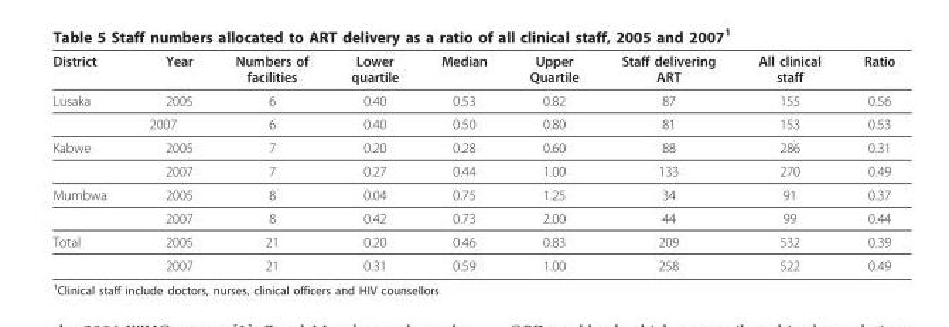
<table><thead><tr><td>District</td><td>Year</td><td>Numbers of facilities</td><td>Lower quartile</td><td>Median</td><td>Upper Quartile</td><td>Staff delivering ART</td><td>All clinical staff</td><td>Ratio</td></tr></thead><tbody><tr><td rowspan="2">Lusaka</td><td>2005</td><td>6</td><td>0.40</td><td>0.53</td><td>0.82</td><td>87</td><td>155</td><td>0.56</td></tr><tr><td>2007</td><td>6</td><td>0.40</td><td>0.50</td><td>0.80</td><td>81</td><td>153</td><td>0.53</td></tr><tr><td rowspan="2">Kabwe</td><td>2005</td><td>7</td><td>0.20</td><td>0.28</td><td>0.60</td><td>88</td><td>286</td><td>0.31</td></tr><tr><td>2007</td><td>7</td><td>0.27</td><td>0.44</td><td>1.00</td><td>133</td><td>270</td><td>0.49</td></tr><tr><td rowspan="2">Mumbwa</td><td>2005</td><td>8</td><td>0.04</td><td>0.75</td><td>1.25</td><td>34</td><td>91</td><td>0.37</td></tr><tr><td>2007</td><td>8</td><td>0.42</td><td>0.73</td><td>2.00</td><td>44</td><td>99</td><td>0.44</td></tr><tr><td rowspan="2">Total</td><td>2005</td><td>21</td><td>0.20</td><td>0.46</td><td>0.83</td><td>209</td><td>532</td><td>0.39</td></tr><tr><td>2007</td><td>21</td><td>0.31</td><td>0.59</td><td>1.00</td><td>258</td><td>522</td><td>0.49</td></tr></tbody></table>